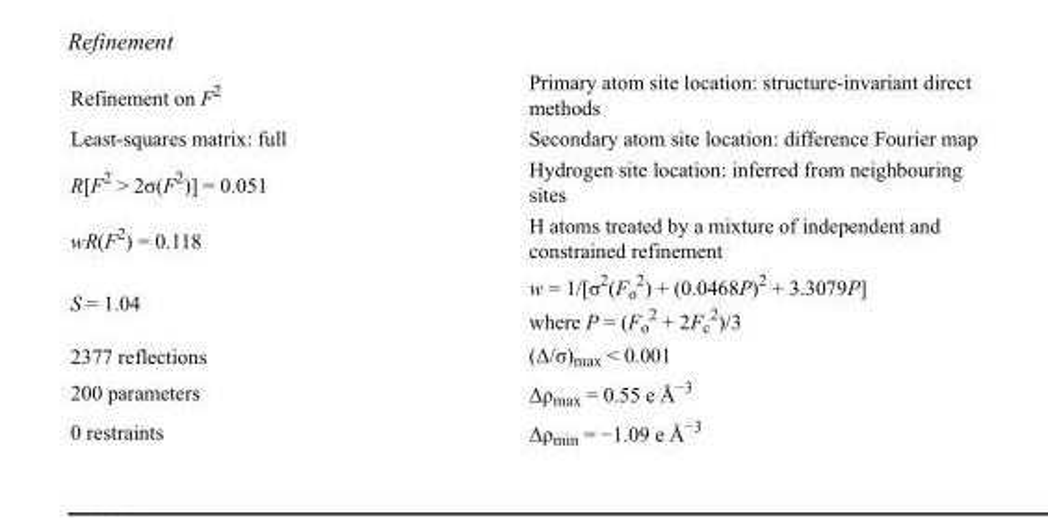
<table><tbody><tr><td>Refinement on F<sup>2</sup></td><td>Primary atom site location: structure-invariant direct methods</td></tr><tr><td>Least-squares matrix: full</td><td>Secondary atom site location: difference Fourier map</td></tr><tr><td>R[F<sup>2</sup> &gt; 2σ(F<sup>2</sup>)] = 0.051</td><td>Hydrogen site location: inferred from neighbouring sites</td></tr><tr><td>wR(F<sup>2</sup>) = 0.118</td><td>H atoms treated by a mixture of independent and constrained refinement</td></tr><tr><td>S = 1.04</td><td>w = 1/[σ<sup>2</sup>(F<sub>o</sub> <sup>2</sup>) + (0.0468P)<sup>2</sup> + 3.3079P] where P = (F<sub>o</sub> <sup>2</sup> + 2F<sub>c</sub> <sup>2</sup>)/3</td></tr><tr><td>2377 reflections</td><td>(Δ/σ)<sub>max</sub> &lt; 0.001</td></tr><tr><td>200 parameters</td><td>Δρ<sub>max</sub> = 0.55 e Å<sup>−3</sup></td></tr><tr><td>0 restraints</td><td>Δρ<sub>min</sub> = −1.09 e Å<sup>−3</sup></td></tr></tbody></table>